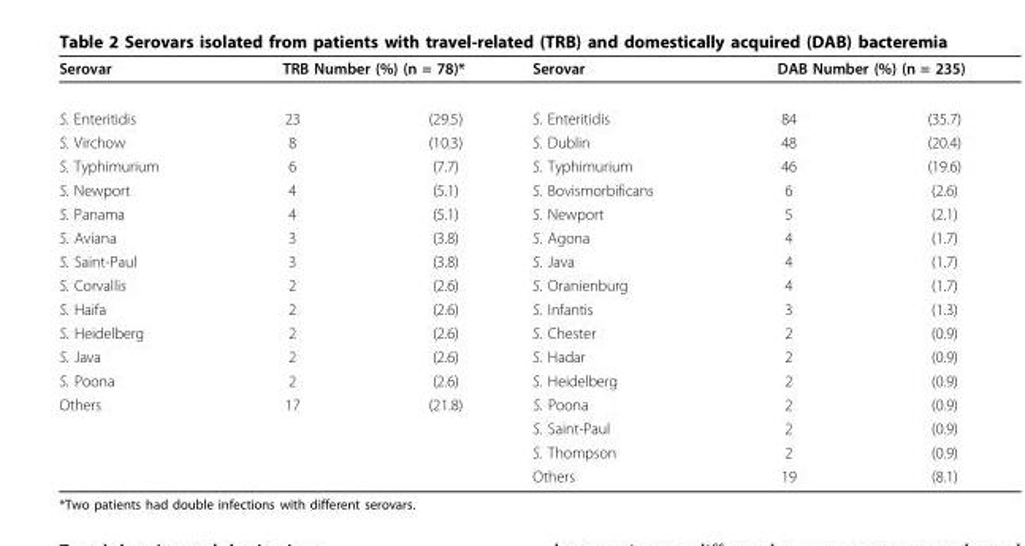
<table><thead><tr><td rowspan="2">Serovar S. Enteritidis</td><td colspan="2">TRB Number (%) (n = 78)*</td><td rowspan="2">Serovar S. Enteritidis</td><td colspan="2">DAB Number (%) (n = 235)</td></tr><tr><td>23</td><td>(29.5)</td><td>84</td><td>(35.7)</td></tr></thead><tbody><tr><td>S. Virchow</td><td>8</td><td>(10.3)</td><td>S. Dublin</td><td>48</td><td>(20.4)</td></tr><tr><td>S. Typhimurium</td><td>6</td><td>(7.7)</td><td>S. Typhimurium</td><td>46</td><td>(19.6)</td></tr><tr><td>S. Newport</td><td>4</td><td>(5.1)</td><td>S. Bovismorbificans</td><td>6</td><td>(2.6)</td></tr><tr><td>S. Panama</td><td>4</td><td>(5.1)</td><td>S. Newport</td><td>5</td><td>(2.1)</td></tr><tr><td>S. Aviana</td><td>3</td><td>(3.8)</td><td>S. Agona</td><td>4</td><td>(1.7)</td></tr><tr><td>S. Saint-Paul</td><td>3</td><td>(3.8)</td><td>S. Java</td><td>4</td><td>(1.7)</td></tr><tr><td>S. Corvallis</td><td>2</td><td>(2.6)</td><td>S. Oranienburg</td><td>4</td><td>(1.7)</td></tr><tr><td>S. Haifa</td><td>2</td><td>(2.6)</td><td>S. Infantis</td><td>3</td><td>(1.3)</td></tr><tr><td>S. Heidelberg</td><td>2</td><td>(2.6)</td><td>S. Chester</td><td>2</td><td>(0.9)</td></tr><tr><td>S. Java</td><td>2</td><td>(2.6)</td><td>S. Hadar</td><td>2</td><td>(0.9)</td></tr><tr><td>S. Poona</td><td>2</td><td>(2.6)</td><td>S. Heidelberg</td><td>2</td><td>(0.9)</td></tr><tr><td rowspan="4">Others</td><td>17</td><td>(21.8)</td><td>S. Poona</td><td>2</td><td>(0.9)</td></tr><tr><td></td><td></td><td>S. Saint-Paul</td><td>2</td><td>(0.9)</td></tr><tr><td></td><td></td><td>S. Thompson</td><td>2</td><td>(0.9)</td></tr><tr><td></td><td></td><td>Others</td><td>19</td><td>(8.1)</td></tr></tbody></table>